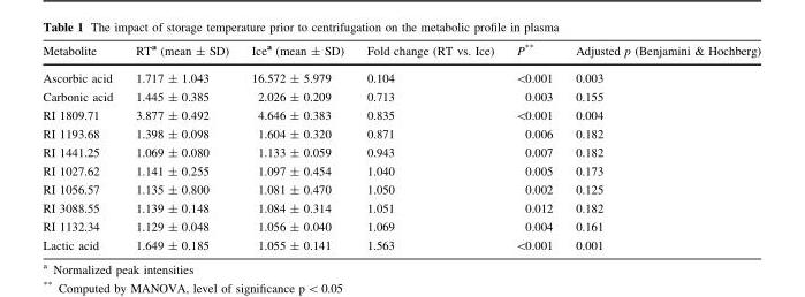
<table><thead><tr><td>Metabolite</td><td>RT<sup>a</sup> (mean ± SD)</td><td>Ice<sup>a</sup> (mean ± SD)</td><td>Fold change (RT vs. Ice)</td><td>P**</td><td>Adjusted p (Benjamini &amp; Hochberg)</td></tr></thead><tbody><tr><td>Ascorbic acid</td><td>1.717 ± 1.043</td><td>16.572 ± 5.979</td><td>0.104</td><td>&lt;0.001</td><td>0.003</td></tr><tr><td>Carbonic acid</td><td>1.445 ± 0.385</td><td>2.026 ± 0.209</td><td>0.713</td><td>0.003</td><td>0.155</td></tr><tr><td>RI 1809.71</td><td>3.877 ± 0.492</td><td>4.646 ± 0.383</td><td>0.835</td><td>&lt;0.001</td><td>0.004</td></tr><tr><td>RI 1193.68</td><td>1.398 ± 0.098</td><td>1.604 ± 0.320</td><td>0.871</td><td>0.006</td><td>0.182</td></tr><tr><td>RI 1441.25</td><td>1.069 ± 0.080</td><td>1.133 ± 0.059</td><td>0.943</td><td>0.007</td><td>0.182</td></tr><tr><td>RI 1027.62</td><td>1.141 ± 0.255</td><td>1.097 ± 0.454</td><td>1.040</td><td>0.005</td><td>0.173</td></tr><tr><td>RI 1056.57</td><td>1.135 ± 0.800</td><td>1.081 ± 0.470</td><td>1.050</td><td>0.002</td><td>0.125</td></tr><tr><td>RI 3088.55</td><td>1.139 ± 0.148</td><td>1.084 ± 0.314</td><td>1.051</td><td>0.012</td><td>0.182</td></tr><tr><td>RI 1132.34</td><td>1.129 ± 0.048</td><td>1.056 ± 0.040</td><td>1.069</td><td>0.004</td><td>0.161</td></tr><tr><td>Lactic acid</td><td>1.649 ± 0.185</td><td>1.055 ± 0.141</td><td>1.563</td><td>&lt;0.001</td><td>0.001</td></tr></tbody></table>